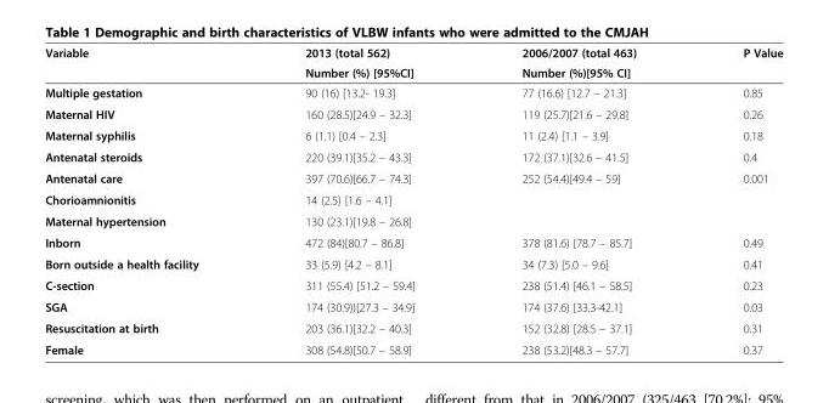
<table><thead><tr><td rowspan="2">Variable</td><td rowspan="2">2013 (total 562) Number (%) [95%CI]</td><td rowspan="2">2006/2007 (total 463) Number (%)[95% CI]</td><td rowspan="2">P Value</td></tr><tr></tr></thead><tbody><tr><td>Multiple gestation</td><td>90 (16) [13.2- 19.3]</td><td>77 (16.6) [12.7 – 21.3]</td><td>0.85</td></tr><tr><td>Maternal HIV</td><td>160 (28.5)[24.9 – 32.3]</td><td>119 (25.7)[21.6 – 29.8]</td><td>0.26</td></tr><tr><td>Maternal syphilis</td><td>6 (1.1) [0.4 – 2.3]</td><td>11 (2.4) [1.1 – 3.9]</td><td>0.18</td></tr><tr><td>Antenatal steroids</td><td>220 (39.1)[35.2 – 43.3]</td><td>172 (37.1)[32.6 – 41.5]</td><td>0.4</td></tr><tr><td>Antenatal care</td><td>397 (70.6)[66.7 – 74.3]</td><td>252 (54.4)[49.4 – 59]</td><td>0.001</td></tr><tr><td>Chorioamnionitis</td><td>14 (2.5) [1.6 – 4.1]</td><td></td><td></td></tr><tr><td>Maternal hypertension</td><td>130 (23.1)[19.8 – 26.8]</td><td></td><td></td></tr><tr><td>Inborn</td><td>472 (84)[80.7 – 86.8]</td><td>378 (81.6) [78.7 – 85.7]</td><td>0.49</td></tr><tr><td>Born outside a health facility</td><td>33 (5.9) [4.2 – 8.1]</td><td>34 (7.3) [5.0 – 9.6]</td><td>0.41</td></tr><tr><td>C-section</td><td>311 (55.4) [51.2 – 59.4]</td><td>238 (51.4) [46.1 – 58.5]</td><td>0.23</td></tr><tr><td>SGA</td><td>174 (30.9))[27.3 – 34.9]</td><td>174 (37.6) [33.3-42.1]</td><td>0.03</td></tr><tr><td>Resuscitation at birth</td><td>203 (36.1)[32.2 – 40.3]</td><td>152 (32.8) [28.5 – 37.1]</td><td>0.31</td></tr><tr><td>Female</td><td>308 (54.8)[50.7 – 58.9]</td><td>238 (53.2)[48.3 – 57.7]</td><td>0.37</td></tr></tbody></table>